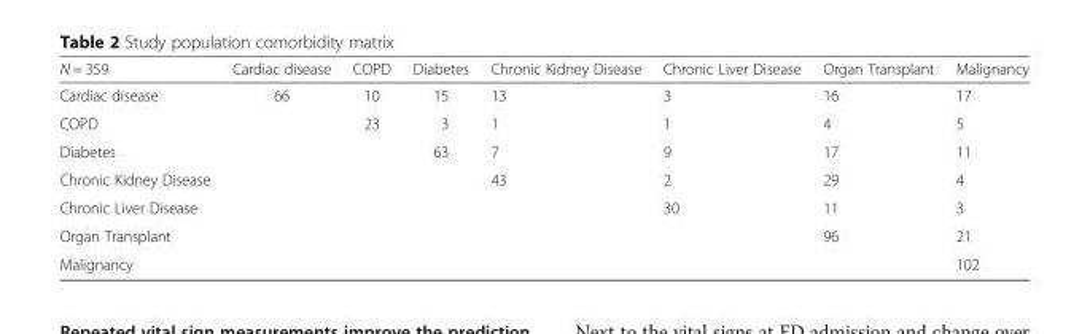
<table><thead><tr><td>N = 359</td><td>Cardiac disease</td><td>COPD</td><td>Diabetes</td><td>Chronic Kidney Disease</td><td>Chronic Liver Disease</td><td>Organ Transplant</td><td>Malignancy</td></tr></thead><tbody><tr><td>Cardiac disease</td><td>66</td><td>10</td><td>15</td><td>13</td><td>3</td><td>16</td><td>17</td></tr><tr><td>COPD</td><td></td><td>23</td><td>3</td><td>1</td><td>1</td><td>4</td><td>5</td></tr><tr><td>Diabetes</td><td></td><td></td><td>63</td><td>7</td><td>9</td><td>17</td><td>11</td></tr><tr><td>Chronic Kidney Disease</td><td></td><td></td><td></td><td>43</td><td>2</td><td>29</td><td>4</td></tr><tr><td>Chronic Liver Disease</td><td></td><td></td><td></td><td></td><td>30</td><td>11</td><td>3</td></tr><tr><td>Organ Transplant</td><td></td><td></td><td></td><td></td><td></td><td>96</td><td>21</td></tr><tr><td>Malignancy</td><td></td><td></td><td></td><td></td><td></td><td></td><td>102</td></tr></tbody></table>